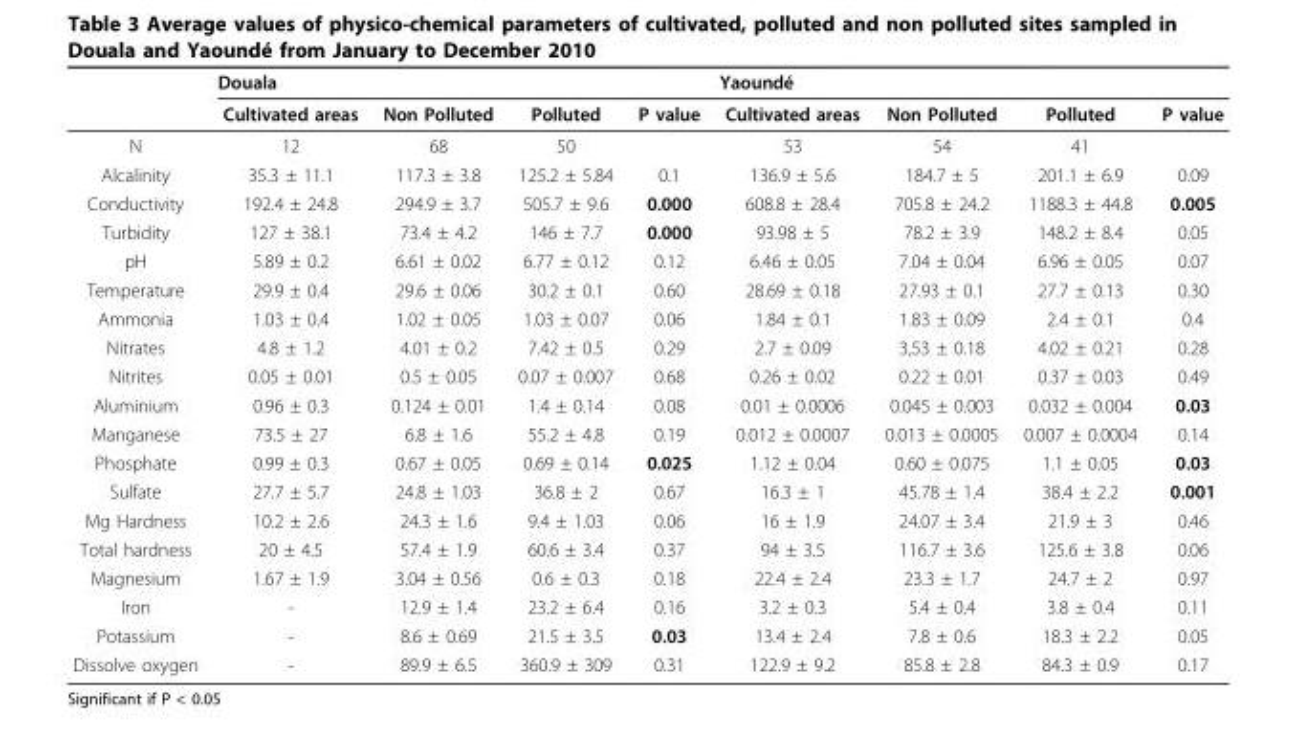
<table><thead><tr><td rowspan="2"></td><td colspan="4">Douala</td><td colspan="4">Yaoundé</td></tr><tr><td>Cultivated areas</td><td>Non Polluted</td><td>Polluted</td><td>P value</td><td>Cultivated areas</td><td>Non Polluted</td><td>Polluted</td><td>P value</td></tr></thead><tbody><tr><td>N</td><td>12</td><td>68</td><td>50</td><td></td><td>53</td><td>54</td><td>41</td><td></td></tr><tr><td>Alcalinity</td><td>35.3 ± 11.1</td><td>117.3 ± 3.8</td><td>125.2 ± 5.84</td><td>0.1</td><td>136.9 ± 5.6</td><td>184.7 ± 5</td><td>201.1 ± 6.9</td><td>0.09</td></tr><tr><td>Conductivity</td><td>192.4 ± 24.8</td><td>294.9 ± 3.7</td><td>505.7 ± 9.6</td><td>0.000</td><td>608.8 ± 28.4</td><td>705.8 ± 24.2</td><td>1188.3 ± 44.8</td><td>0.005</td></tr><tr><td>Turbidity</td><td>127 ± 38.1</td><td>73.4 ± 4.2</td><td>146 ± 7.7</td><td>0.000</td><td>93.98 ± 5</td><td>78.2 ± 3.9</td><td>148.2 ± 8.4</td><td>0.05</td></tr><tr><td>pH</td><td>5.89 ± 0.2</td><td>6.61 ± 0.02</td><td>6.77 ± 0.12</td><td>0.12</td><td>6.46 ± 0.05</td><td>7.04 ± 0.04</td><td>6.96 ± 0.05</td><td>0.07</td></tr><tr><td>Temperature</td><td>29.9 ± 0.4</td><td>29.6 ± 0.06</td><td>30.2 ± 0.1</td><td>0.60</td><td>28.69 ± 0.18</td><td>27.93 ± 0.1</td><td>27.7 ± 0.13</td><td>0.30</td></tr><tr><td>Ammonia</td><td>1.03 ± 0.4</td><td>1.02 ± 0.05</td><td>1.03 ± 0.07</td><td>0.06</td><td>1.84 ± 0.1</td><td>1.83 ± 0.09</td><td>2.4 ± 0.1</td><td>0.4</td></tr><tr><td>Nitrates</td><td>4.8 ± 1.2</td><td>4.01 ± 0.2</td><td>7.42 ± 0.5</td><td>0.29</td><td>2.7 ± 0.09</td><td>3,53 ± 0.18</td><td>4.02 ± 0.21</td><td>0.28</td></tr><tr><td>Nitrites</td><td>0.05 ± 0.01</td><td>0.5 ± 0.05</td><td>0.07 ± 0.007</td><td>0.68</td><td>0.26 ± 0.02</td><td>0.22 ± 0.01</td><td>0.37 ± 0.03</td><td>0.49</td></tr><tr><td>Aluminium</td><td>0.96 ± 0.3</td><td>0.124 ± 0.01</td><td>1.4 ± 0.14</td><td>0.08</td><td>0.01 ± 0.0006</td><td>0.045 ± 0.003</td><td>0.032 ± 0.004</td><td>0.03</td></tr><tr><td>Manganese</td><td>73.5 ± 27</td><td>6.8 ± 1.6</td><td>55.2 ± 4.8</td><td>0.19</td><td>0.012 ± 0.0007</td><td>0.013 ± 0.0005</td><td>0.007 ± 0.0004</td><td>0.14</td></tr><tr><td>Phosphate</td><td>0.99 ± 0.3</td><td>0.67 ± 0.05</td><td>0.69 ± 0.14</td><td>0.025</td><td>1.12 ± 0.04</td><td>0.60 ± 0.075</td><td>1.1 ± 0.05</td><td>0.03</td></tr><tr><td>Sulfate</td><td>27.7 ± 5.7</td><td>24.8 ± 1.03</td><td>36.8 ± 2</td><td>0.67</td><td>16.3 ± 1</td><td>45.78 ± 1.4</td><td>38.4 ± 2.2</td><td>0.001</td></tr><tr><td>Mg Hardness</td><td>10.2 ± 2.6</td><td>24.3 ± 1.6</td><td>9.4 ± 1.03</td><td>0.06</td><td>16 ± 1.9</td><td>24.07 ± 3.4</td><td>21.9 ± 3</td><td>0.46</td></tr><tr><td>Total hardness</td><td>20 ± 4.5</td><td>57.4 ± 1.9</td><td>60.6 ± 3.4</td><td>0.37</td><td>94 ± 3.5</td><td>116.7 ± 3.6</td><td>125.6 ± 3.8</td><td>0.06</td></tr><tr><td>Magnesium</td><td>1.67 ± 1.9</td><td>3.04 ± 0.56</td><td>0.6 ± 0.3</td><td>0.18</td><td>22.4 ± 2.4</td><td>23.3 ± 1.7</td><td>24.7 ± 2</td><td>0.97</td></tr><tr><td>Iron</td><td>-</td><td>12.9 ± 1.4</td><td>23.2 ± 6.4</td><td>0.16</td><td>3.2 ± 0.3</td><td>5.4 ± 0.4</td><td>3.8 ± 0.4</td><td>0.11</td></tr><tr><td>Potassium</td><td>-</td><td>8.6 ± 0.69</td><td>21.5 ± 3.5</td><td>0.03</td><td>13.4 ± 2.4</td><td>7.8 ± 0.6</td><td>18.3 ± 2.2</td><td>0.05</td></tr><tr><td>Dissolve oxygen</td><td>-</td><td>89.9 ± 6.5</td><td>360.9 ± 309</td><td>0.31</td><td>122.9 ± 9.2</td><td>85.8 ± 2.8</td><td>84.3 ± 0.9</td><td>0.17</td></tr></tbody></table>